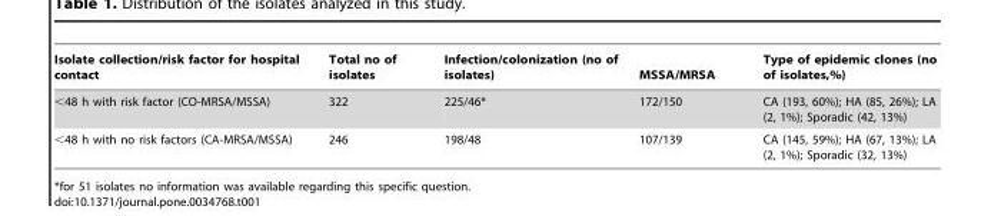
<table><thead><tr><td>Isolate collection/risk factor for hospital contact</td><td>Total no of isolates</td><td>Infection/colonization (no of isolates)</td><td>MSSA/MRSA</td><td>Type of epidemic clones (no of isolates,%)</td></tr></thead><tbody><tr><td>&lt;48 h with risk factor (CO-MRSA/MSSA)</td><td>322</td><td>225/46*</td><td>172/150</td><td>CA (193, 60%); HA (85, 26%); LA (2, 1%); Sporadic (42, 13%)</td></tr><tr><td>&lt;48 h with no risk factors (CA-MRSA/MSSA)</td><td>246</td><td>198/48</td><td>107/139</td><td>CA (145, 59%); HA (67, 13%); LA (2, 1%); Sporadic (32, 13%)</td></tr></tbody></table>